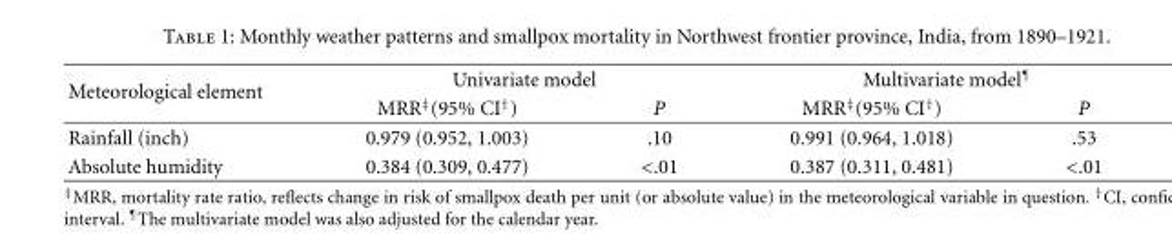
<table><thead><tr><td rowspan="2">Meteorological element</td><td colspan="2">Univariate model</td><td colspan="2">Multivariate model<sup>¶</sup></td></tr><tr><td>MRR<sup>‡</sup>(95% CI<sup>†</sup>)</td><td>P</td><td>MRR<sup>‡</sup>(95% CI<sup>†</sup>)</td><td>P</td></tr></thead><tbody><tr><td>Rainfall (inch)</td><td>0.979 (0.952, 1.003)</td><td>.10</td><td>0.991 (0.964, 1.018)</td><td>.53</td></tr><tr><td>Absolute humidity</td><td>0.384 (0.309, 0.477)</td><td>&lt;.01</td><td>0.387 (0.311, 0.481)</td><td>&lt;.01</td></tr></tbody></table>